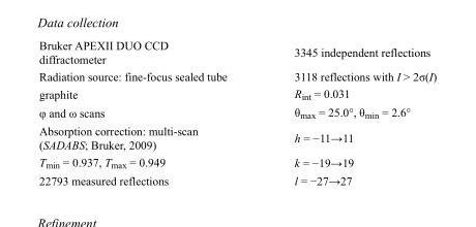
<table><tbody><tr><td>Bruker APEXII DUO CCD diffractometer</td><td>3345 independent reflections</td></tr><tr><td>Radiation source: fine-focus sealed tube</td><td>3118 reflections with I &gt; 2σ(I)</td></tr><tr><td>graphite</td><td>R<sub>int</sub> = 0.031</td></tr><tr><td>φ and ω scans</td><td>θ<sub>max</sub> = 25.0°, θ<sub>min</sub> = 2.6°</td></tr><tr><td>Absorption correction: multi-scan (SADABS; Bruker, 2009)</td><td>h = −11→11</td></tr><tr><td>T<sub>min</sub> = 0.937, T<sub>max</sub> = 0.949</td><td>k = −19→19</td></tr><tr><td>22793 measured reflections</td><td>l = −27→27</td></tr></tbody></table>